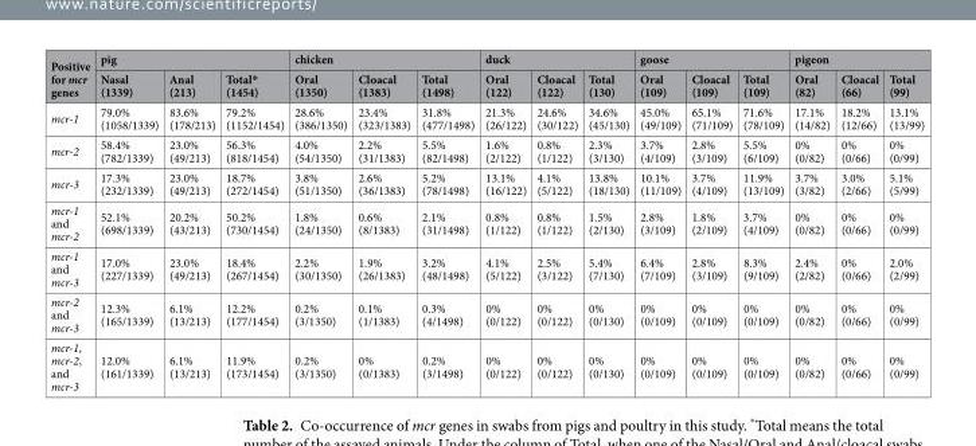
<table><thead><tr><td rowspan="2">Positive for mcr genes</td><td colspan="3">pig</td><td colspan="3">chicken</td><td colspan="3">duck</td><td colspan="3">goose</td><td colspan="3">pigeon</td></tr><tr><td>Nasal (1339)</td><td>Anal (213)</td><td>Total* (1454)</td><td>Oral (1350)</td><td>Cloacal (1383)</td><td>Total (1498)</td><td>Oral (122)</td><td>Cloacal (122)</td><td>Total (130)</td><td>Oral (109)</td><td>Cloacal (109)</td><td>Total (109)</td><td>Oral (82)</td><td>Cloacal (66)</td><td>Total (99)</td></tr></thead><tbody><tr><td>mcr-1</td><td>79.0% (1058/1339)</td><td>83.6% (178/213)</td><td>79.2% (1152/1454)</td><td>28.6% (386/1350)</td><td>23.4% (323/1383)</td><td>31.8% (477/1498)</td><td>21.3% (26/122)</td><td>24.6% (30/122)</td><td>34.6% (45/130)</td><td>45.0% (49/109)</td><td>65.1% (71/109)</td><td>71.6% (78/109)</td><td>17.1% (14/82)</td><td>18.2% (12/66)</td><td>13.1% (13/99)</td></tr><tr><td>mcr-2</td><td>58.4% (782/1339)</td><td>23.0% (49/213)</td><td>56.3% (818/1454)</td><td>4.0% (54/1350)</td><td>2.2% (31/1383)</td><td>5.5% (82/1498)</td><td>1.6% (2/122)</td><td>0.8% (1/122)</td><td>2.3% (3/130)</td><td>3.7% (4/109)</td><td>2.8% (3/109)</td><td>5.5% (6/109)</td><td>0% (0/82)</td><td>0% (0/66)</td><td>0% (0/99)</td></tr><tr><td>mcr-3</td><td>17.3% (232/1339)</td><td>23.0% (49/213)</td><td>18.7% (272/1454)</td><td>3.8% (51/1350)</td><td>2.6% (36/1383)</td><td>5.2% (78/1498)</td><td>13.1% (16/122)</td><td>4.1% (5/122)</td><td>13.8% (18/130)</td><td>10.1% (11/109)</td><td>3.7% (4/109)</td><td>11.9% (13/109)</td><td>3.7% (3/82)</td><td>3.0% (2/66)</td><td>5.1% (5/99)</td></tr><tr><td>mcr-1 and mcr-2</td><td>52.1% (698/1339)</td><td>20.2% (43/213)</td><td>50.2% (730/1454)</td><td>1.8% (24/1350)</td><td>0.6% (8/1383)</td><td>2.1% (31/1498)</td><td>0.8% (1/122)</td><td>0.8% (1/122)</td><td>1.5% (2/130)</td><td>2.8% (3/109)</td><td>1.8% (2/109)</td><td>3.7% (4/109)</td><td>0% (0/82)</td><td>0% (0/66)</td><td>0% (0/99)</td></tr><tr><td>mcr-1 and mcr-3</td><td>17.0% (227/1339)</td><td>23.0% (49/213)</td><td>18.4% (267/1454)</td><td>2.2% (30/1350)</td><td>1.9% (26/1383)</td><td>3.2% (48/1498)</td><td>4.1% (5/122)</td><td>2.5% (3/122)</td><td>5.4% (7/130)</td><td>6.4% (7/109)</td><td>2.8% (3/109)</td><td>8.3% (9/109)</td><td>2.4% (2/82)</td><td>0% (0/66)</td><td>2.0% (2/99)</td></tr><tr><td>mcr-2 and mcr-3</td><td>12.3% (165/1339)</td><td>6.1% (13/213)</td><td>12.2% (177/1454)</td><td>0.2% (3/1350)</td><td>0.1% (1/1383)</td><td>0.3% (4/1498)</td><td>0% (0/122)</td><td>0% (0/122)</td><td>0% (0/130)</td><td>0% (0/109)</td><td>0% (0/109)</td><td>0% (0/109)</td><td>0% (0/82)</td><td>0% (0/66)</td><td>0% (0/99)</td></tr><tr><td>mcr-1, mcr-2, and mcr-3</td><td>12.0% (161/1339)</td><td>6.1% (13/213)</td><td>11.9% (173/1454)</td><td>0.2% (3/1350)</td><td>0% (0/1383)</td><td>0.2% (3/1498)</td><td>0% (0/122)</td><td>0% (0/122)</td><td>0% (0/130)</td><td>0% (0/109)</td><td>0% (0/109)</td><td>0% (0/109)</td><td>0% (0/82)</td><td>0% (0/66)</td><td>0% (0/99)</td></tr></tbody></table>